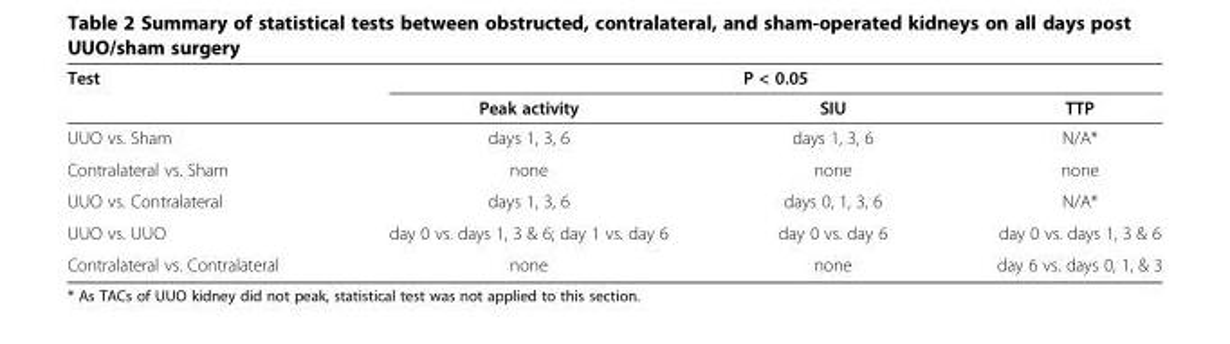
<table><thead><tr><td rowspan="2">Test</td><td colspan="3">P &lt; 0.05</td></tr><tr><td>Peak activity</td><td>SIU</td><td>TTP</td></tr></thead><tbody><tr><td>UUO vs. Sham</td><td>days 1, 3, 6</td><td>days 1, 3, 6</td><td>N/A*</td></tr><tr><td>Contralateral vs. Sham</td><td>none</td><td>none</td><td>none</td></tr><tr><td>UUO vs. Contralateral</td><td>days 1, 3, 6</td><td>days 0, 1, 3, 6</td><td>N/A*</td></tr><tr><td>UUO vs. UUO</td><td>day 0 vs. days 1, 3 &amp; 6; day 1 vs. day 6</td><td>day 0 vs. day 6</td><td>day 0 vs. days 1, 3 &amp; 6</td></tr><tr><td>Contralateral vs. Contralateral</td><td>none</td><td>none</td><td>day 6 vs. days 0, 1, &amp; 3</td></tr></tbody></table>